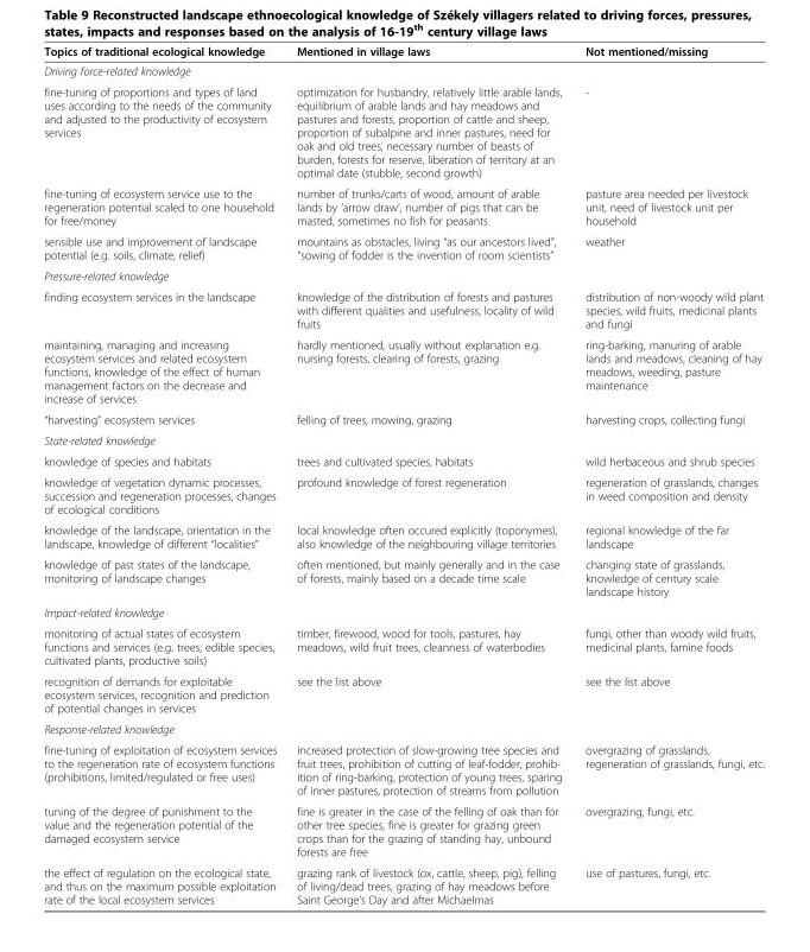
<table><thead><tr><td>Topics of traditional ecological knowledge</td><td>Mentioned in village laws</td><td>Not mentioned/missing</td></tr></thead><tbody><tr><td colspan="3">Driving force-related knowledge</td></tr><tr><td>fine-tuning of proportions and types of land uses according to the needs of the community and adjusted to the productivity of ecosystem services</td><td>optimization for husbandry, relatively little arable lands, equilibrium of arable lands and hay meadows and pastures and forests, proportion of cattle and sheep, proportion of subalpine and inner pastures, need for oak and old trees, necessary number of beasts of burden, forests for reserve, liberation of territory at an optimal date (stubble, second growth)</td><td>-</td></tr><tr><td>fine-tuning of ecosystem service use to the regeneration potential scaled to one household for free/money</td><td>number of trunks/carts of wood, amount of arable lands by ’arrow draw’, number of pigs that can be masted, sometimes no fish for peasants</td><td>pasture area needed per livestock unit, need of livestock unit per household</td></tr><tr><td>sensible use and improvement of landscape potential (e.g. soils, climate, relief)</td><td>mountains as obstacles, living “as our ancestors lived”, “sowing of fodder is the invention of room scientists”</td><td>weather</td></tr><tr><td colspan="3">Pressure-related knowledge</td></tr><tr><td>finding ecosystem services in the landscape</td><td>knowledge of the distribution of forests and pastures with different qualities and usefulness, locality of wild fruits</td><td>distribution of non-woody wild plant species, wild fruits, medicinal plants and fungi</td></tr><tr><td>maintaining, managing and increasing ecosystem services and related ecosystem functions, knowledge of the effect of human management factors on the decrease and increase of services</td><td>hardly mentioned, usually without explanation e.g. nursing forests, clearing of forests, grazing</td><td>ring-barking, manuring of arable lands and meadows, cleaning of hay meadows, weeding, pasture maintenance</td></tr><tr><td>“harvesting” ecosystem services</td><td>felling of trees, mowing, grazing</td><td>harvesting crops, collecting fungi</td></tr><tr><td colspan="3">State-related knowledge</td></tr><tr><td>knowledge of species and habitats</td><td>trees and cultivated species, habitats</td><td>wild herbaceous and shrub species</td></tr><tr><td>knowledge of vegetation dynamic processes, succession and regeneration processes, changes of ecological conditions</td><td>profound knowledge of forest regeneration</td><td>regeneration of grasslands, changes in weed composition and density</td></tr><tr><td>knowledge of the landscape, orientation in the landscape, knowledge of different “localities”</td><td>local knowledge often occured explicitly (toponymes), also knowledge of the neighbouring village territories</td><td>regional knowledge of the far landscape</td></tr><tr><td>knowledge of past states of the landscape, monitoring of landscape changes</td><td>often mentioned, but mainly generally and in the case of forests, mainly based on a decade time scale</td><td>changing state of grasslands, knowledge of century scale landscape history</td></tr><tr><td colspan="3">Impact-related knowledge</td></tr><tr><td>monitoring of actual states of ecosystem functions and services (e.g. trees, edible species, cultivated plants, productive soils)</td><td>timber, firewood, wood for tools, pastures, hay meadows, wild fruit trees, cleanness of waterbodies</td><td>fungi, other than woody wild fruits, medicinal plants, famine foods</td></tr><tr><td>recognition of demands for exploitable ecosystem services, recognition and prediction of potential changes in services</td><td>see the list above</td><td>see the list above</td></tr><tr><td colspan="3">Response-related knowledge</td></tr><tr><td>fine-tuning of exploitation of ecosystem services to the regeneration rate of ecosystem functions (prohibitions, limited/regulated or free uses)</td><td>increased protection of slow-growing tree species and fruit trees, prohibition of cutting of leaf-fodder, prohib- ition of ring-barking, protection of young trees, sparing of inner pastures, protection of streams from pollution</td><td>overgrazing of grasslands, regeneration of grasslands, fungi, etc.</td></tr><tr><td>tuning of the degree of punishment to the value and the regeneration potential of the damaged ecosystem service</td><td>fine is greater in the case of the felling of oak than for other tree species, fine is greater for grazing green crops than for the grazing of standing hay, unbound forests are free</td><td>overgrazing, fungi, etc.</td></tr><tr><td>the effect of regulation on the ecological state, and thus on the maximum possible exploitation rate of the local ecosystem services</td><td>grazing rank of livestock (ox, cattle, sheep, pig), felling of living/dead trees, grazing of hay meadows before Saint George’s Day and after Michaelmas</td><td>use of pastures, fungi, etc.</td></tr></tbody></table>